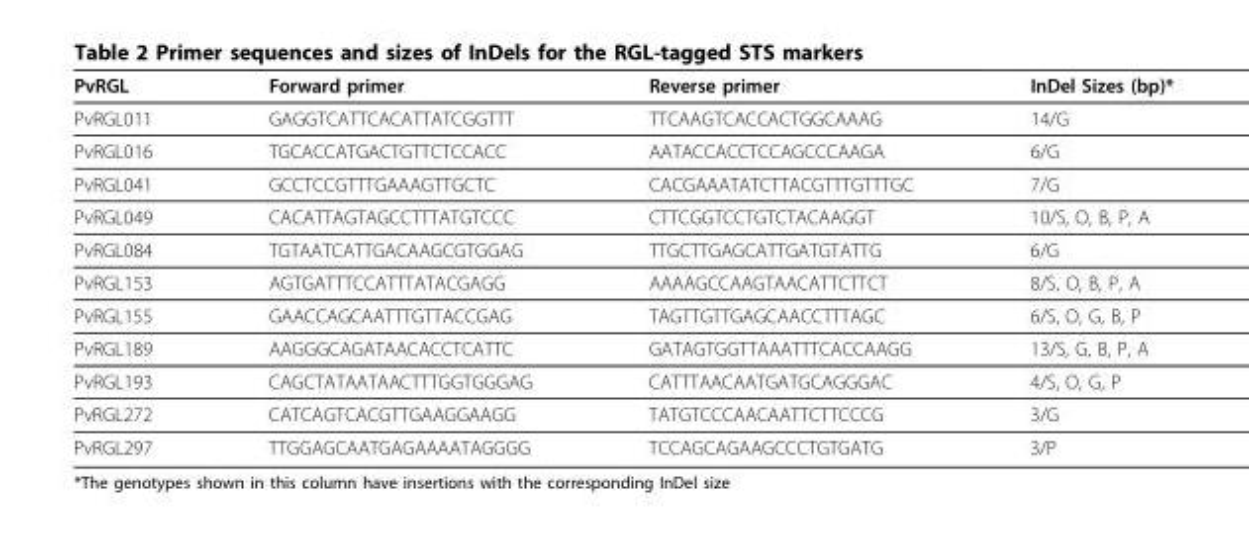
<table><thead><tr><td>PvRGL</td><td>Forward primer</td><td>Reverse primer</td><td>InDel Sizes (bp)*</td></tr></thead><tbody><tr><td>PvRGL011</td><td>GAGGTCATTCACATTATCGGTTT</td><td>TTCAAGTCACCACTGGCAAAG</td><td>14/G</td></tr><tr><td>PvRGL016</td><td>TGCACCATGACTGTTCTCCACC</td><td>AATACCACCTCCAGCCCAAGA</td><td>6/G</td></tr><tr><td>PvRGL041</td><td>GCCTCCGTTTGAAAGTTGCTC</td><td>CACGAAATATCTTACGTTTGTTTGC</td><td>7/G</td></tr><tr><td>PvRGL049</td><td>CACATTAGTAGCCTTTATGTCCC</td><td>CTTCGGTCCTGTCTACAAGGT</td><td>10/S, O, B, P, A</td></tr><tr><td>PvRGL084</td><td>TGTAATCATTGACAAGCGTGGAG</td><td>TTGCTTGAGCATTGATGTATTG</td><td>6/G</td></tr><tr><td>PvRGL153</td><td>AGTGATTTCCATTTATACGAGG</td><td>AAAAGCCAAGTAACATTCTTCT</td><td>8/S, O, B, P, A</td></tr><tr><td>PvRGL155</td><td>GAACCAGCAATTTGTTACCGAG</td><td>TAGTTGTTGAGCAACCTTTAGC</td><td>6/S, O, G, B, P</td></tr><tr><td>PvRGL189</td><td>AAGGGCAGATAACACCTCATTC</td><td>GATAGTGGTTAAATTTCACCAAGG</td><td>13/S, G, B, P, A</td></tr><tr><td>PvRGL193</td><td>CAGCTATAATAACTTTGGTGGGAG</td><td>CATTTAACAATGATGCAGGGAC</td><td>4/S, O, G, P</td></tr><tr><td>PvRGL272</td><td>CATCAGTCACGTTGAAGGAAGG</td><td>TATGTCCCAACAATTCTTCCCG</td><td>3/G</td></tr><tr><td>PvRGL297</td><td>TTGGAGCAATGAGAAAATAGGGG</td><td>TCCAGCAGAAGCCCTGTGATG</td><td>3/P</td></tr></tbody></table>